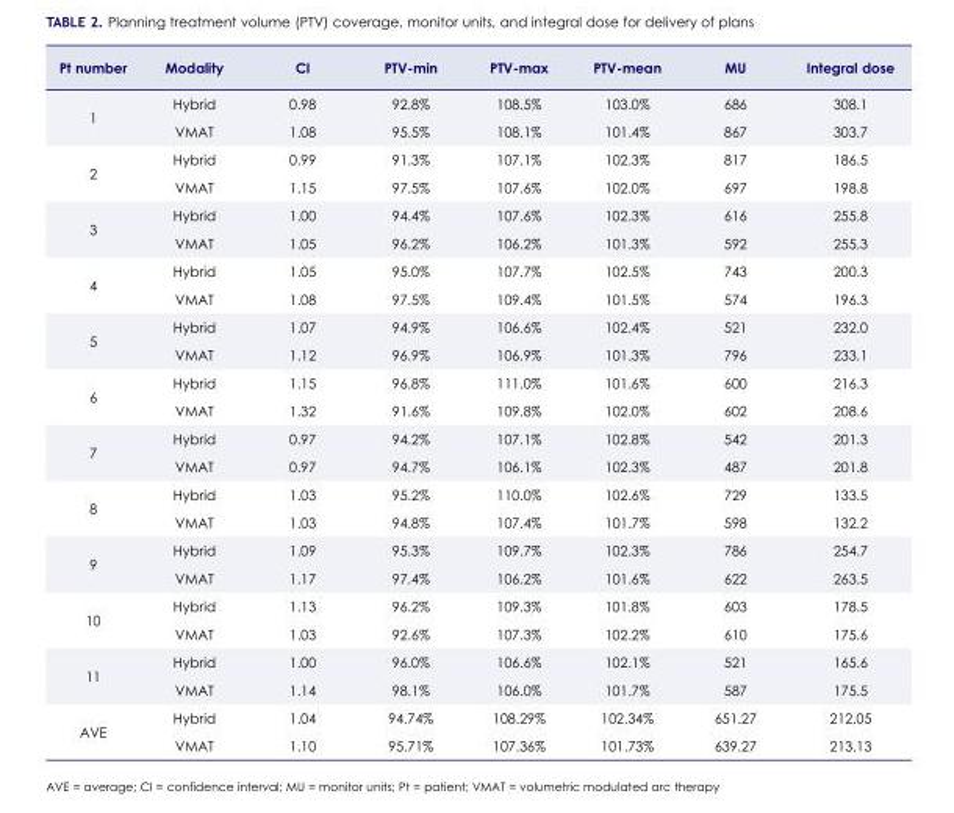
<table><thead><tr><td>Pt number</td><td>Modality</td><td>CI</td><td>PTV-min</td><td>PTV-max</td><td>PTV-mean</td><td>MU</td><td>Integral dose</td></tr></thead><tbody><tr><td rowspan="2">1</td><td>Hybrid</td><td>0.98</td><td>92.8%</td><td>108.5%</td><td>103.0%</td><td>686</td><td>308.1</td></tr><tr><td>VMAT</td><td>1.08</td><td>95.5%</td><td>108.1%</td><td>101.4%</td><td>867</td><td>303.7</td></tr><tr><td rowspan="2">2</td><td>Hybrid</td><td>0.99</td><td>91.3%</td><td>107.1%</td><td>102.3%</td><td>817</td><td>186.5</td></tr><tr><td>VMAT</td><td>1.15</td><td>97.5%</td><td>107.6%</td><td>102.0%</td><td>697</td><td>198.8</td></tr><tr><td rowspan="2">3</td><td>Hybrid</td><td>1.00</td><td>94.4%</td><td>107.6%</td><td>102.3%</td><td>616</td><td>255.8</td></tr><tr><td>VMAT</td><td>1.05</td><td>96.2%</td><td>106.2%</td><td>101.3%</td><td>592</td><td>255.3</td></tr><tr><td rowspan="2">4</td><td>Hybrid</td><td>1.05</td><td>95.0%</td><td>107.7%</td><td>102.5%</td><td>743</td><td>200.3</td></tr><tr><td>VMAT</td><td>1.08</td><td>97.5%</td><td>109.4%</td><td>101.5%</td><td>574</td><td>196.3</td></tr><tr><td rowspan="2">5</td><td>Hybrid</td><td>1.07</td><td>94.9%</td><td>106.6%</td><td>102.4%</td><td>521</td><td>232.0</td></tr><tr><td>VMAT</td><td>1.12</td><td>96.9%</td><td>106.9%</td><td>101.3%</td><td>796</td><td>233.1</td></tr><tr><td rowspan="2">6</td><td>Hybrid</td><td>1.15</td><td>96.8%</td><td>111.0%</td><td>101.6%</td><td>600</td><td>216.3</td></tr><tr><td>VMAT</td><td>1.32</td><td>91.6%</td><td>109.8%</td><td>102.0%</td><td>602</td><td>208.6</td></tr><tr><td rowspan="2">7</td><td>Hybrid</td><td>0.97</td><td>94.2%</td><td>107.1%</td><td>102.8%</td><td>542</td><td>201.3</td></tr><tr><td>VMAT</td><td>0.97</td><td>94.7%</td><td>106.1%</td><td>102.3%</td><td>487</td><td>201.8</td></tr><tr><td rowspan="2">8</td><td>Hybrid</td><td>1.03</td><td>95.2%</td><td>110.0%</td><td>102.6%</td><td>729</td><td>133.5</td></tr><tr><td>VMAT</td><td>1.03</td><td>94.8%</td><td>107.4%</td><td>101.7%</td><td>598</td><td>132.2</td></tr><tr><td rowspan="2">9</td><td>Hybrid</td><td>1.09</td><td>95.3%</td><td>109.7%</td><td>102.3%</td><td>786</td><td>254.7</td></tr><tr><td>VMAT</td><td>1.17</td><td>97.4%</td><td>106.2%</td><td>101.6%</td><td>622</td><td>263.5</td></tr><tr><td rowspan="2">10</td><td>Hybrid</td><td>1.13</td><td>96.2%</td><td>109.3%</td><td>101.8%</td><td>603</td><td>178.5</td></tr><tr><td>VMAT</td><td>1.03</td><td>92.6%</td><td>107.3%</td><td>102.2%</td><td>610</td><td>175.6</td></tr><tr><td rowspan="2">11</td><td>Hybrid</td><td>1.00</td><td>96.0%</td><td>106.6%</td><td>102.1%</td><td>521</td><td>165.6</td></tr><tr><td>VMAT</td><td>1.14</td><td>98.1%</td><td>106.0%</td><td>101.7%</td><td>587</td><td>175.5</td></tr><tr><td rowspan="2">AVE</td><td>Hybrid</td><td>1.04</td><td>94.74%</td><td>108.29%</td><td>102.34%</td><td>651.27</td><td>212.05</td></tr><tr><td>VMAT</td><td>1.10</td><td>95.71%</td><td>107.36%</td><td>101.73%</td><td>639.27</td><td>213.13</td></tr></tbody></table>